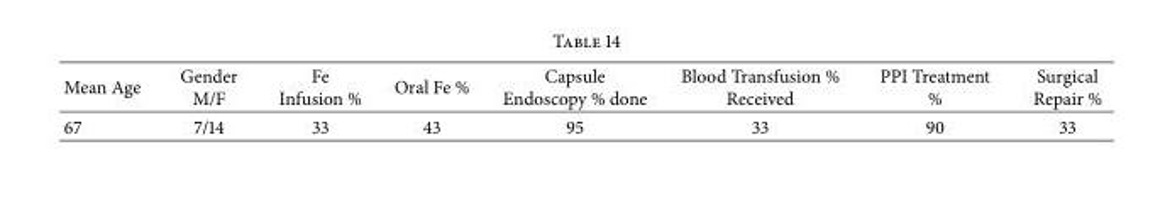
<table><thead><tr><td>Mean Age</td><td>Gender M/F</td><td>Fe Infusion %</td><td>Oral Fe %</td><td>Capsule Endoscopy % done</td><td>Blood Transfusion % Received</td><td>PPI Treatment %</td><td>Surgical Repair %</td></tr></thead><tbody><tr><td>67</td><td>7/14</td><td>33</td><td>43</td><td>95</td><td>33</td><td>90</td><td>33</td></tr></tbody></table>